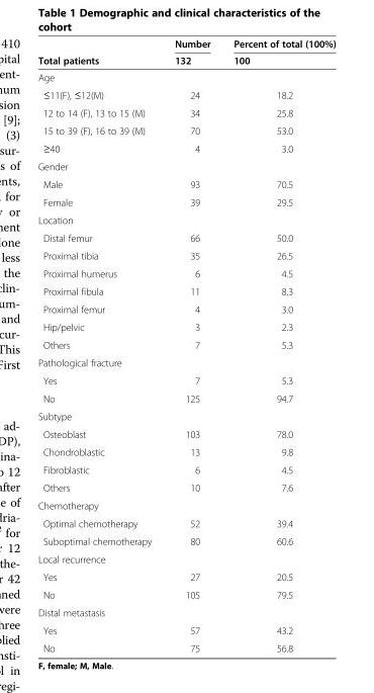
<table><thead><tr><td rowspan="2">Total patients</td><td rowspan="2">Number 132</td><td rowspan="2">Percent of total (100%) 100</td></tr><tr></tr></thead><tbody><tr><td colspan="3">Age</td></tr><tr><td>≤11(F), ≤12(M)</td><td>24</td><td>18.2</td></tr><tr><td>12 to 14 (F), 13 to 15 (M)</td><td>34</td><td>25.8</td></tr><tr><td>15 to 39 (F), 16 to 39 (M)</td><td>70</td><td>53.0</td></tr><tr><td>≥40</td><td>4</td><td>3.0</td></tr><tr><td colspan="3">Gender</td></tr><tr><td>Male</td><td>93</td><td>70.5</td></tr><tr><td>Female</td><td>39</td><td>29.5</td></tr><tr><td colspan="3">Location</td></tr><tr><td>Distal femur</td><td>66</td><td>50.0</td></tr><tr><td>Proximal tibia</td><td>35</td><td>26.5</td></tr><tr><td>Proximal humerus</td><td>6</td><td>4.5</td></tr><tr><td>Proximal fibula</td><td>11</td><td>8.3</td></tr><tr><td>Proximal femur</td><td>4</td><td>3.0</td></tr><tr><td>Hip/pelvic</td><td>3</td><td>2.3</td></tr><tr><td>Others</td><td>7</td><td>5.3</td></tr><tr><td colspan="3">Pathological fracture</td></tr><tr><td>Yes</td><td>7</td><td>5.3</td></tr><tr><td>No</td><td>125</td><td>94.7</td></tr><tr><td colspan="3">Subtype</td></tr><tr><td>Osteoblast</td><td>103</td><td>78.0</td></tr><tr><td>Chondroblastic</td><td>13</td><td>9.8</td></tr><tr><td>Fibroblastic</td><td>6</td><td>4.5</td></tr><tr><td>Others</td><td>10</td><td>7.6</td></tr><tr><td colspan="3">Chemotherapy</td></tr><tr><td>Optimal chemotherapy</td><td>52</td><td>39.4</td></tr><tr><td>Suboptimal chemotherapy</td><td>80</td><td>60.6</td></tr><tr><td colspan="3">Local recurrence</td></tr><tr><td>Yes</td><td>27</td><td>20.5</td></tr><tr><td>No</td><td>105</td><td>79.5</td></tr><tr><td colspan="3">Distal metastasis</td></tr><tr><td>Yes</td><td>57</td><td>43.2</td></tr><tr><td>No</td><td>75</td><td>56.8</td></tr></tbody></table>